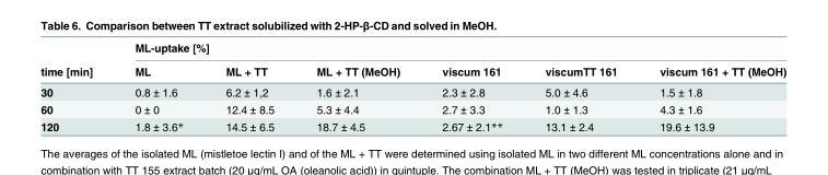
<table><thead><tr><td rowspan="2">time [min]</td><td colspan="6">ML-uptake [%]</td></tr><tr><td>ML</td><td>ML + TT</td><td>ML + TT (MeOH)</td><td>viscum 161</td><td>viscumTT 161</td><td>viscum 161 + TT (MeOH)</td></tr></thead><tbody><tr><td>30</td><td>0.8 ± 1.6</td><td>6.2 ± 1,2</td><td>1.6 ± 2.1</td><td>2.3 ± 2.8</td><td>5.0 ± 4.6</td><td>1.5 ± 1.8</td></tr><tr><td>60</td><td>0 ± 0</td><td>12.4 ± 8.5</td><td>5.3 ± 4.4</td><td>2.7 ± 3.3</td><td>1.0 ± 1.3</td><td>4.3 ± 1.6</td></tr><tr><td>120</td><td>1.8 ± 3.6*</td><td>14.5 ± 6.5</td><td>18.7 ± 4.5</td><td>2.67 ± 2.1**</td><td>13.1 ± 2.4</td><td>19.6 ± 13.9</td></tr></tbody></table>